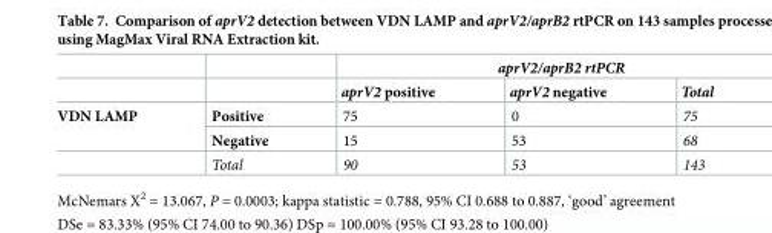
<table><thead><tr><td rowspan="2"></td><td rowspan="2"></td><td colspan="3">aprV2/aprB2 rtPCR</td></tr><tr><td>aprV2 positive</td><td>aprV2 negative</td><td>Total</td></tr></thead><tbody><tr><td rowspan="3">VDN LAMP</td><td>Positive</td><td>75</td><td>0</td><td>75</td></tr><tr><td>Negative</td><td>15</td><td>53</td><td>68</td></tr><tr><td>Total</td><td>90</td><td>53</td><td>143</td></tr></tbody></table>